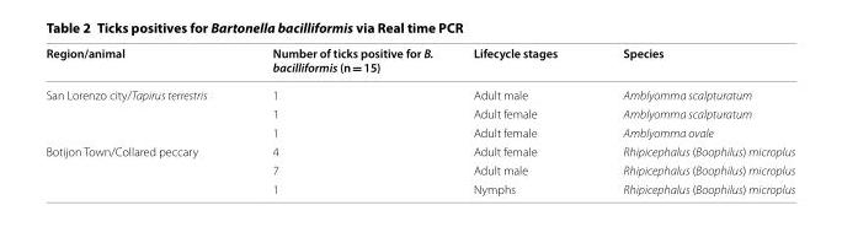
<table><thead><tr><td>Region/animal</td><td>Number of ticks positive for B. bacilliformis (n = 15)</td><td>Lifecycle stages</td><td>Species</td></tr></thead><tbody><tr><td rowspan="3">San Lorenzo city/Tapirus terrestris</td><td>1</td><td>Adult male</td><td>Amblyomma scalpturatum</td></tr><tr><td>1</td><td>Adult female</td><td>Amblyomma scalpturatum</td></tr><tr><td>1</td><td>Adult female</td><td>Amblyomma ovale</td></tr><tr><td rowspan="3">Botijon Town/Collared peccary</td><td>4</td><td>Adult female</td><td>Rhipicephalus (Boophilus) microplus</td></tr><tr><td>7</td><td>Adult male</td><td>Rhipicephalus (Boophilus) microplus</td></tr><tr><td>1</td><td>Nymphs</td><td>Rhipicephalus (Boophilus) microplus</td></tr></tbody></table>